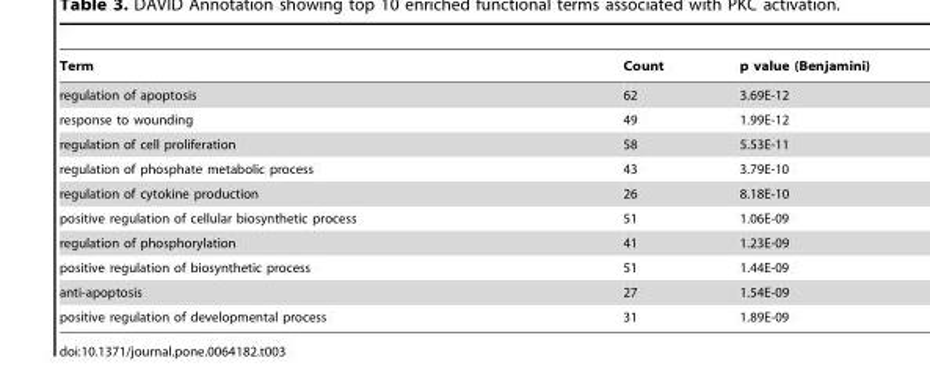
<table><thead><tr><td>Term</td><td>Count</td><td>p value (Benjamini)</td></tr></thead><tbody><tr><td>regulation of apoptosis</td><td>62</td><td>3.69E-12</td></tr><tr><td>response to wounding</td><td>49</td><td>1.99E-12</td></tr><tr><td>regulation of cell proliferation</td><td>58</td><td>5.53E-11</td></tr><tr><td>regulation of phosphate metabolic process</td><td>43</td><td>3.79E-10</td></tr><tr><td>regulation of cytokine production</td><td>26</td><td>8.18E-10</td></tr><tr><td>positive regulation of cellular biosynthetic process</td><td>51</td><td>1.06E-09</td></tr><tr><td>regulation of phosphorylation</td><td>41</td><td>1.23E-09</td></tr><tr><td>positive regulation of biosynthetic process</td><td>51</td><td>1.44E-09</td></tr><tr><td>anti-apoptosis</td><td>27</td><td>1.54E-09</td></tr><tr><td>positive regulation of developmental process</td><td>31</td><td>1.89E-09</td></tr></tbody></table>